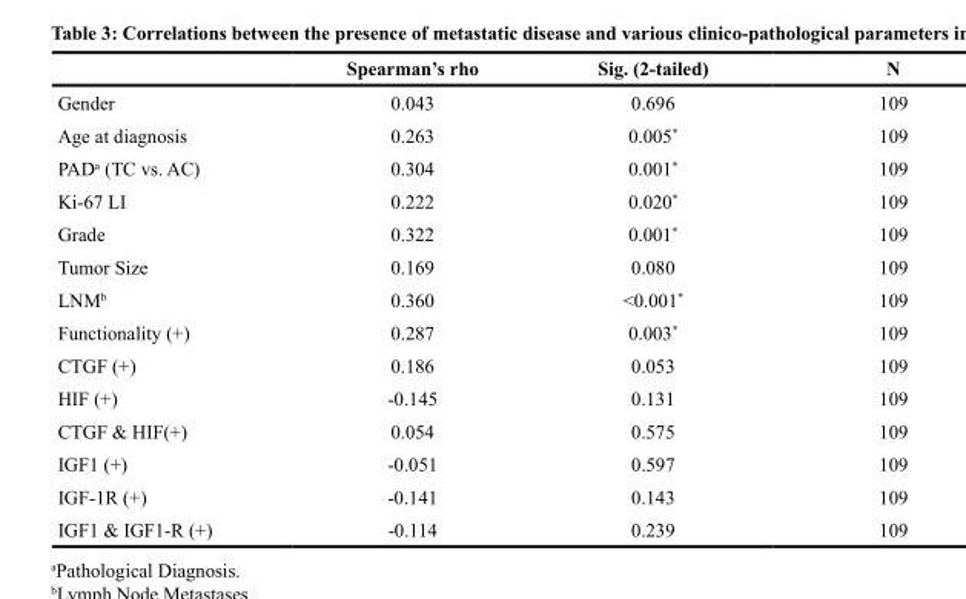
<table><thead><tr><td></td><td>Spearman’s rho</td><td>Sig. (2-tailed)</td><td>N</td></tr></thead><tbody><tr><td>Gender</td><td>0.043</td><td>0.696</td><td>109</td></tr><tr><td>Age at diagnosis</td><td>0.263</td><td>0.005*</td><td>109</td></tr><tr><td>PAD<sup>a</sup> (TC vs. AC)</td><td>0.304</td><td>0.001*</td><td>109</td></tr><tr><td>Ki-67 LI</td><td>0.222</td><td>0.020*</td><td>109</td></tr><tr><td>Grade</td><td>0.322</td><td>0.001*</td><td>109</td></tr><tr><td>Tumor Size</td><td>0.169</td><td>0.080</td><td>109</td></tr><tr><td>LNM<sup>b</sup></td><td>0.360</td><td>&lt;0.001*</td><td>109</td></tr><tr><td>Functionality (+)</td><td>0.287</td><td>0.003*</td><td>109</td></tr><tr><td>CTGF (+)</td><td>0.186</td><td>0.053</td><td>109</td></tr><tr><td>HIF (+)</td><td>-0.145</td><td>0.131</td><td>109</td></tr><tr><td>CTGF &amp; HIF(+)</td><td>0.054</td><td>0.575</td><td>109</td></tr><tr><td>IGF1 (+)</td><td>-0.051</td><td>0.597</td><td>109</td></tr><tr><td>IGF-1R (+)</td><td>-0.141</td><td>0.143</td><td>109</td></tr><tr><td>IGF1 &amp; IGF1-R (+)</td><td>-0.114</td><td>0.239</td><td>109</td></tr></tbody></table>